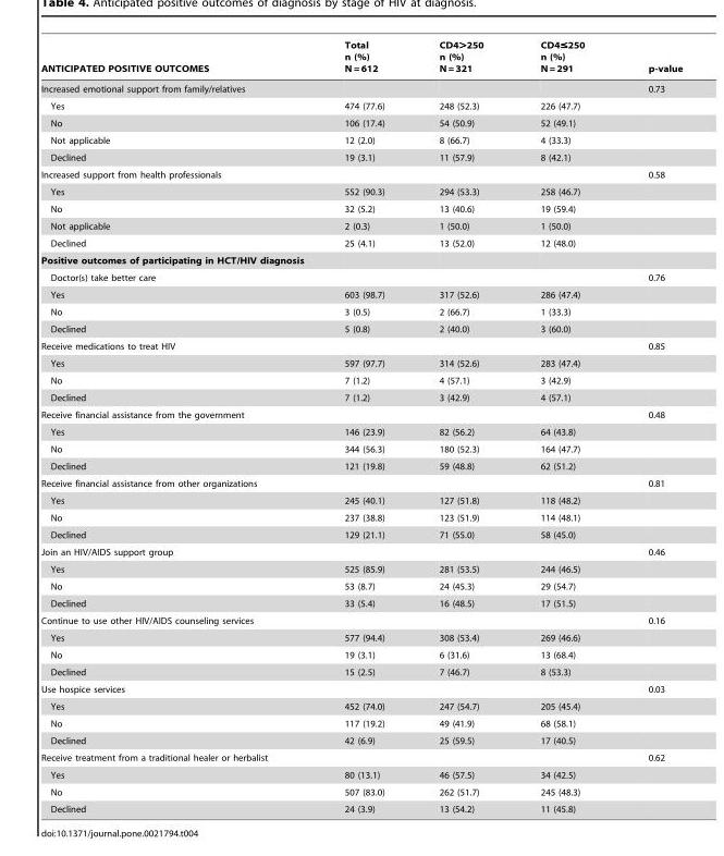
<table><thead><tr><td>ANTICIPATED POSITIVE OUTCOMES</td><td>Total n (%) N = 612</td><td>CD4&gt;250 n (%) N = 321</td><td>CD4≤250 n (%) N = 291</td><td>p-value</td></tr></thead><tbody><tr><td>Increased emotional support from family/relatives</td><td></td><td></td><td></td><td>0.73</td></tr><tr><td>Yes</td><td>474 (77.6)</td><td>248 (52.3)</td><td>226 (47.7)</td><td></td></tr><tr><td>No</td><td>106 (17.4)</td><td>54 (50.9)</td><td>52 (49.1)</td><td></td></tr><tr><td>Not applicable</td><td>12 (2.0)</td><td>8 (66.7)</td><td>4 (33.3)</td><td></td></tr><tr><td>Declined</td><td>19 (3.1)</td><td>11 (57.9)</td><td>8 (42.1)</td><td></td></tr><tr><td>Increased support from health professionals</td><td></td><td></td><td></td><td>0.58</td></tr><tr><td>Yes</td><td>552 (90.3)</td><td>294 (53.3)</td><td>258 (46.7)</td><td></td></tr><tr><td>No</td><td>32 (5.2)</td><td>13 (40.6)</td><td>19 (59.4)</td><td></td></tr><tr><td>Not applicable</td><td>2 (0.3)</td><td>1 (50.0)</td><td>1 (50.0)</td><td></td></tr><tr><td>Declined</td><td>25 (4.1)</td><td>13 (52.0)</td><td>12 (48.0)</td><td></td></tr><tr><td colspan="5">Positive outcomes of participating in HCT/HIV diagnosis</td></tr><tr><td>Doctor(s) take better care</td><td></td><td></td><td></td><td>0.76</td></tr><tr><td>Yes</td><td>603 (98.7)</td><td>317 (52.6)</td><td>286 (47.4)</td><td></td></tr><tr><td>No</td><td>3 (0.5)</td><td>2 (66.7)</td><td>1 (33.3)</td><td></td></tr><tr><td>Declined</td><td>5 (0.8)</td><td>2 (40.0)</td><td>3 (60.0)</td><td></td></tr><tr><td>Receive medications to treat HIV</td><td></td><td></td><td></td><td>0.85</td></tr><tr><td>Yes</td><td>597 (97.7)</td><td>314 (52.6)</td><td>283 (47.4)</td><td></td></tr><tr><td>No</td><td>7 (1.2)</td><td>4 (57.1)</td><td>3 (42.9)</td><td></td></tr><tr><td>Declined</td><td>7 (1.2)</td><td>3 (42.9)</td><td>4 (57.1)</td><td></td></tr><tr><td>Receive financial assistance from the government</td><td></td><td></td><td></td><td>0.48</td></tr><tr><td>Yes</td><td>146 (23.9)</td><td>82 (56.2)</td><td>64 (43.8)</td><td></td></tr><tr><td>No</td><td>344 (56.3)</td><td>180 (52.3)</td><td>164 (47.7)</td><td></td></tr><tr><td>Declined</td><td>121 (19.8)</td><td>59 (48.8)</td><td>62 (51.2)</td><td></td></tr><tr><td>Receive financial assistance from other organizations</td><td></td><td></td><td></td><td>0.81</td></tr><tr><td>Yes</td><td>245 (40.1)</td><td>127 (51.8)</td><td>118 (48.2)</td><td></td></tr><tr><td>No</td><td>237 (38.8)</td><td>123 (51.9)</td><td>114 (48.1)</td><td></td></tr><tr><td>Declined</td><td>129 (21.1)</td><td>71 (55.0)</td><td>58 (45.0)</td><td></td></tr><tr><td>Join an HIV/AIDS support group</td><td></td><td></td><td></td><td>0.46</td></tr><tr><td>Yes</td><td>525 (85.9)</td><td>281 (53.5)</td><td>244 (46.5)</td><td></td></tr><tr><td>No</td><td>53 (8.7)</td><td>24 (45.3)</td><td>29 (54.7)</td><td></td></tr><tr><td>Declined</td><td>33 (5.4)</td><td>16 (48.5)</td><td>17 (51.5)</td><td></td></tr><tr><td>Continue to use other HIV/AIDS counseling services</td><td></td><td></td><td></td><td>0.16</td></tr><tr><td>Yes</td><td>577 (94.4)</td><td>308 (53.4)</td><td>269 (46.6)</td><td></td></tr><tr><td>No</td><td>19 (3.1)</td><td>6 (31.6)</td><td>13 (68.4)</td><td></td></tr><tr><td>Declined</td><td>15 (2.5)</td><td>7 (46.7)</td><td>8 (53.3)</td><td></td></tr><tr><td>Use hospice services</td><td></td><td></td><td></td><td>0.03</td></tr><tr><td>Yes</td><td>452 (74.0)</td><td>247 (54.7)</td><td>205 (45.4)</td><td></td></tr><tr><td>No</td><td>117 (19.2)</td><td>49 (41.9)</td><td>68 (58.1)</td><td></td></tr><tr><td>Declined</td><td>42 (6.9)</td><td>25 (59.5)</td><td>17 (40.5)</td><td></td></tr><tr><td>Receive treatment from a traditional healer or herbalist</td><td></td><td></td><td></td><td>0.62</td></tr><tr><td>Yes</td><td>80 (13.1)</td><td>46 (57.5)</td><td>34 (42.5)</td><td></td></tr><tr><td>No</td><td>507 (83.0)</td><td>262 (51.7)</td><td>245 (48.3)</td><td></td></tr><tr><td>Declined</td><td>24 (3.9)</td><td>13 (54.2)</td><td>11 (45.8)</td><td></td></tr></tbody></table>